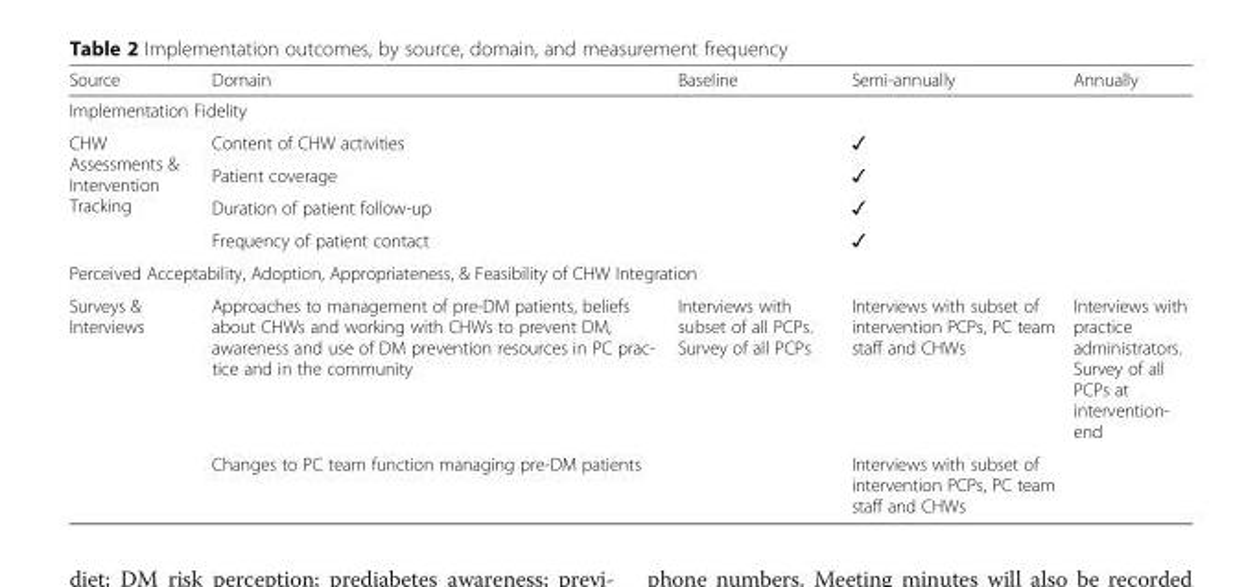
<table><thead><tr><td>Source</td><td>Domain</td><td>Baseline</td><td>Semi-annually</td><td>Annually</td></tr></thead><tbody><tr><td colspan="5">Implementation Fidelity</td></tr><tr><td rowspan="4">CHW Assessments &amp; Intervention Tracking</td><td>Content of CHW activities</td><td></td><td>✓</td><td></td></tr><tr><td>Patient coverage</td><td></td><td>✓</td><td></td></tr><tr><td>Duration of patient follow-up</td><td></td><td>✓</td><td></td></tr><tr><td>Frequency of patient contact</td><td></td><td>✓</td><td></td></tr><tr><td colspan="5">Perceived Acceptability, Adoption, Appropriateness, &amp; Feasibility of CHW Integration</td></tr><tr><td rowspan="2">Surveys &amp; Interviews</td><td>Approaches to management of pre-DM patients, beliefs about CHWs and working with CHWs to prevent DM, awareness and use of DM prevention resources in PC prac- tice and in the community</td><td>Interviews with subset of all PCPs. Survey of all PCPs</td><td>Interviews with subset of intervention PCPs, PC team staff and CHWs</td><td>Interviews with practice administrators. Survey of all PCPs at intervention- end</td></tr><tr><td>Changes to PC team function managing pre-DM patients</td><td></td><td>Interviews with subset of intervention PCPs, PC team staff and CHWs</td><td></td></tr></tbody></table>